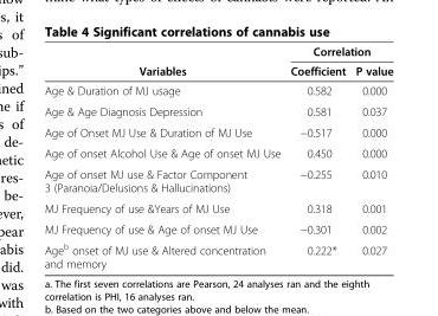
<table><thead><tr><td rowspan="2">Variables</td><td colspan="2">Correlation</td></tr><tr><td>Coefficient</td><td>P value</td></tr></thead><tbody><tr><td>Age &amp; Duration of MJ usage</td><td>0.582</td><td>0.000</td></tr><tr><td>Age &amp; Age Diagnosis Depression</td><td>0.581</td><td>0.037</td></tr><tr><td>Age of Onset MJ Use &amp; Duration of MJ Use</td><td>−0.517</td><td>0.000</td></tr><tr><td>Age of onset Alcohol Use &amp; Age of onset MJ Use</td><td>0.450</td><td>0.000</td></tr><tr><td>Age of onset MJ use &amp; Factor Component 3 (Paranoia/Delusions &amp; Hallucinations)</td><td>−0.255</td><td>0.010</td></tr><tr><td>MJ Frequency of use &amp;Years of MJ Use</td><td>0.318</td><td>0.001</td></tr><tr><td>MJ Frequency of use &amp; Age of onset MJ Use</td><td>−0.301</td><td>0.002</td></tr><tr><td>Age<sup>b</sup> onset of MJ use &amp; Altered concentration and memory</td><td>0.222*</td><td>0.027</td></tr></tbody></table>